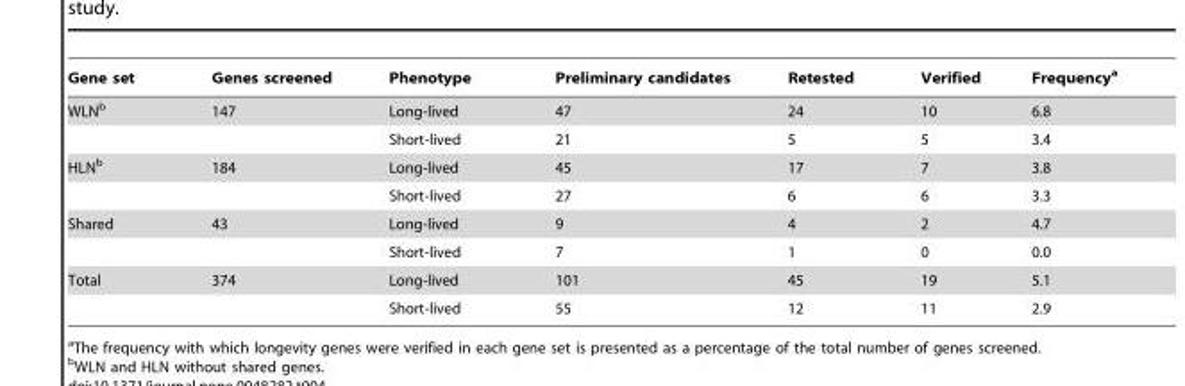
<table><thead><tr><td>Gene set</td><td>Genes screened</td><td>Phenotype</td><td>Preliminary candidates</td><td>Retested</td><td>Verified</td><td>Frequency<sup>a</sup></td></tr></thead><tbody><tr><td rowspan="2">WLN<sup>b</sup></td><td>147</td><td>Long-lived</td><td>47</td><td>24</td><td>10</td><td>6.8</td></tr><tr><td></td><td>Short-lived</td><td>21</td><td>5</td><td>5</td><td>3.4</td></tr><tr><td rowspan="2">HLN<sup>b</sup></td><td>184</td><td>Long-lived</td><td>45</td><td>17</td><td>7</td><td>3.8</td></tr><tr><td></td><td>Short-lived</td><td>27</td><td>6</td><td>6</td><td>3.3</td></tr><tr><td rowspan="2">Shared</td><td>43</td><td>Long-lived</td><td>9</td><td>4</td><td>2</td><td>4.7</td></tr><tr><td></td><td>Short-lived</td><td>7</td><td>1</td><td>0</td><td>0.0</td></tr><tr><td rowspan="2">Total</td><td>374</td><td>Long-lived</td><td>101</td><td>45</td><td>19</td><td>5.1</td></tr><tr><td></td><td>Short-lived</td><td>55</td><td>12</td><td>11</td><td>2.9</td></tr></tbody></table>